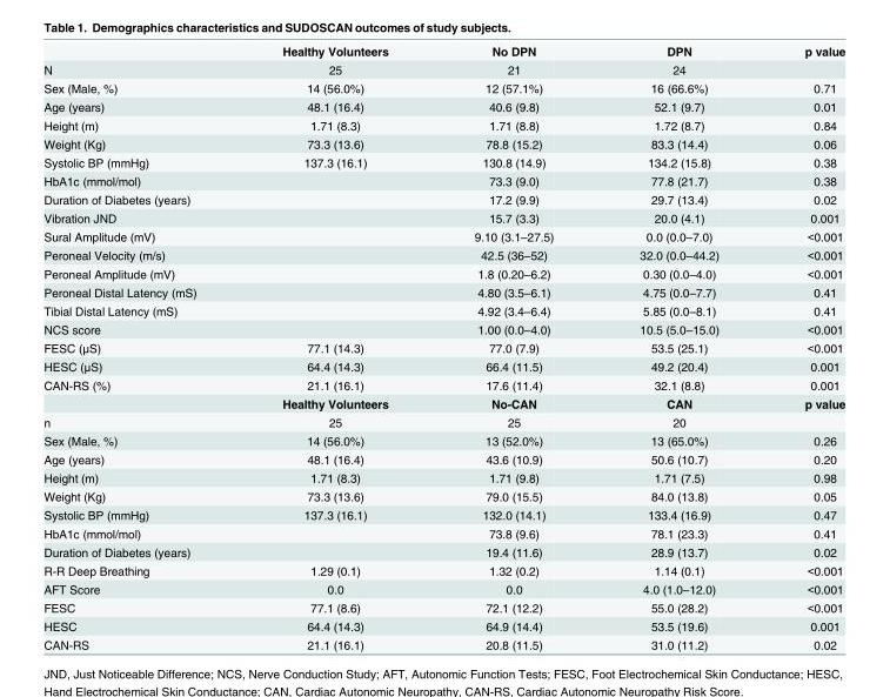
<table><thead><tr><td></td><td>Healthy Volunteers</td><td>No DPN</td><td>DPN</td><td>p value</td></tr></thead><tbody><tr><td>N</td><td>25</td><td>21</td><td>24</td><td></td></tr><tr><td>Sex (Male, %)</td><td>14 (56.0%)</td><td>12 (57.1%)</td><td>16 (66.6%)</td><td>0.71</td></tr><tr><td>Age (years)</td><td>48.1 (16.4)</td><td>40.6 (9.8)</td><td>52.1 (9.7)</td><td>0.01</td></tr><tr><td>Height (m)</td><td>1.71 (8.3)</td><td>1.71 (8.8)</td><td>1.72 (8.7)</td><td>0.84</td></tr><tr><td>Weight (Kg)</td><td>73.3 (13.6)</td><td>78.8 (15.2)</td><td>83.3 (14.4)</td><td>0.06</td></tr><tr><td>Systolic BP (mmHg)</td><td>137.3 (16.1)</td><td>130.8 (14.9)</td><td>134.2 (15.8)</td><td>0.38</td></tr><tr><td>HbA1c (mmol/mol)</td><td></td><td>73.3 (9.0)</td><td>77.8 (21.7)</td><td>0.38</td></tr><tr><td>Duration of Diabetes (years)</td><td></td><td>17.2 (9.9)</td><td>29.7 (13.4)</td><td>0.02</td></tr><tr><td>Vibration JND</td><td></td><td>15.7 (3.3)</td><td>20.0 (4.1)</td><td>0.001</td></tr><tr><td>Sural Amplitude (mV)</td><td></td><td>9.10 (3.1–27.5)</td><td>0.0 (0.0–7.0)</td><td>&lt;0.001</td></tr><tr><td>Peroneal Velocity (m/s)</td><td></td><td>42.5 (36–52)</td><td>32.0 (0.0–44.2)</td><td>&lt;0.001</td></tr><tr><td>Peroneal Amplitude (mV)</td><td></td><td>1.8 (0.20–6.2)</td><td>0.30 (0.0–4.0)</td><td>&lt;0.001</td></tr><tr><td>Peroneal Distal Latency (mS)</td><td></td><td>4.80 (3.5–6.1)</td><td>4.75 (0.0–7.7)</td><td>0.41</td></tr><tr><td>Tibial Distal Latency (mS)</td><td></td><td>4.92 (3.4–6.4)</td><td>5.85 (0.0–8.1)</td><td>0.41</td></tr><tr><td>NCS score</td><td></td><td>1.00 (0.0–4.0)</td><td>10.5 (5.0–15.0)</td><td>&lt;0.001</td></tr><tr><td>FESC (μS)</td><td>77.1 (14.3)</td><td>77.0 (7.9)</td><td>53.5 (25.1)</td><td>&lt;0.001</td></tr><tr><td>HESC (μS)</td><td>64.4 (14.3)</td><td>66.4 (11.5)</td><td>49.2 (20.4)</td><td>0.001</td></tr><tr><td rowspan="2">CAN-RS (%)</td><td>21.1 (16.1)</td><td>17.6 (11.4)</td><td>32.1 (8.8)</td><td>0.001</td></tr><tr><td>Healthy Volunteers</td><td>No-CAN</td><td>CAN</td><td>p value</td></tr><tr><td>n</td><td>25</td><td>25</td><td>20</td><td></td></tr><tr><td>Sex (Male, %)</td><td>14 (56.0%)</td><td>13 (52.0%)</td><td>13 (65.0%)</td><td>0.26</td></tr><tr><td>Age (years)</td><td>48.1 (16.4)</td><td>43.6 (10.9)</td><td>50.6 (10.7)</td><td>0.20</td></tr><tr><td>Height (m)</td><td>1.71 (8.3)</td><td>1.71 (9.8)</td><td>1.71 (7.5)</td><td>0.98</td></tr><tr><td>Weight (Kg)</td><td>73.3 (13.6)</td><td>79.0 (15.5)</td><td>84.0 (13.8)</td><td>0.05</td></tr><tr><td>Systolic BP (mmHg)</td><td>137.3 (16.1)</td><td>132.0 (14.1)</td><td>133.4 (16.9)</td><td>0.47</td></tr><tr><td>HbA1c (mmol/mol)</td><td></td><td>73.8 (9.6)</td><td>78.1 (23.3)</td><td>0.41</td></tr><tr><td>Duration of Diabetes (years)</td><td></td><td>19.4 (11.6)</td><td>28.9 (13.7)</td><td>0.02</td></tr><tr><td>R-R Deep Breathing</td><td>1.29 (0.1)</td><td>1.32 (0.2)</td><td>1.14 (0.1)</td><td>&lt;0.001</td></tr><tr><td>AFT Score</td><td>0.0</td><td>0.0</td><td>4.0 (1.0–12.0)</td><td>&lt;0.001</td></tr><tr><td>FESC</td><td>77.1 (8.6)</td><td>72.1 (12.2)</td><td>55.0 (28.2)</td><td>&lt;0.001</td></tr><tr><td>HESC</td><td>64.4 (14.3)</td><td>64.9 (14.4)</td><td>53.5 (19.6)</td><td>0.001</td></tr><tr><td>CAN-RS</td><td>21.1 (16.1)</td><td>20.8 (11.5)</td><td>31.0 (11.2)</td><td>0.02</td></tr></tbody></table>